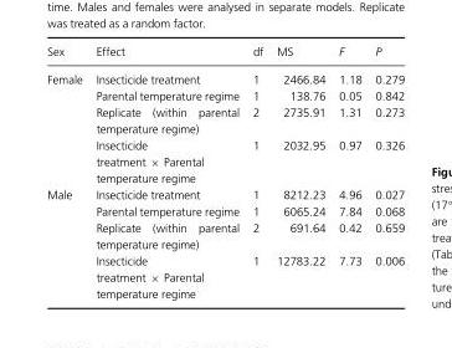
<table><thead><tr><td>Sex</td><td>Effect</td><td>df</td><td>MS</td><td>F</td><td>P</td></tr></thead><tbody><tr><td rowspan="4">Female</td><td>Insecticide treatment</td><td>1</td><td>2466.84</td><td>1.18</td><td>0.279</td></tr><tr><td>Parental temperature regime</td><td>1</td><td>138.76</td><td>0.05</td><td>0.842</td></tr><tr><td>Replicate (within parental temperature regime)</td><td>2</td><td>2735.91</td><td>1.31</td><td>0.273</td></tr><tr><td>Insecticide treatment × Parental temperature regime</td><td>1</td><td>2032.95</td><td>0.97</td><td>0.326</td></tr><tr><td rowspan="4">Male</td><td>Insecticide treatment</td><td>1</td><td>8212.23</td><td>4.96</td><td>0.027</td></tr><tr><td>Parental temperature regime</td><td>1</td><td>6065.24</td><td>7.84</td><td>0.068</td></tr><tr><td>Replicate (within parental temperature regime)</td><td>2</td><td>691.64</td><td>0.42</td><td>0.659</td></tr><tr><td>Insecticide treatment × Parental temperature regime</td><td>1</td><td>12783.22</td><td>7.73</td><td>0.006</td></tr></tbody></table>